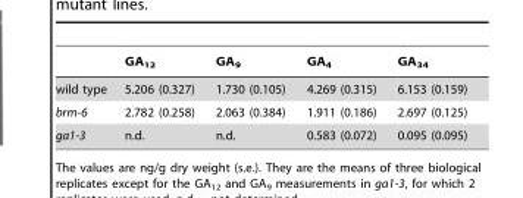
<table><thead><tr><td></td><td>GA<sub>12</sub></td><td>GA<sub>9</sub></td><td>GA<sub>4</sub></td><td>GA<sub>34</sub></td></tr></thead><tbody><tr><td>wild type</td><td>5.206 (0.327)</td><td>1.730 (0.105)</td><td>4.269 (0.315)</td><td>6.153 (0.159)</td></tr><tr><td>brm-6</td><td>2.782 (0.258)</td><td>2.063 (0.384)</td><td>1.911 (0.186)</td><td>2.697 (0.125)</td></tr><tr><td>ga1-3</td><td>n.d.</td><td>n.d.</td><td>0.583 (0.072)</td><td>0.095 (0.095)</td></tr></tbody></table>